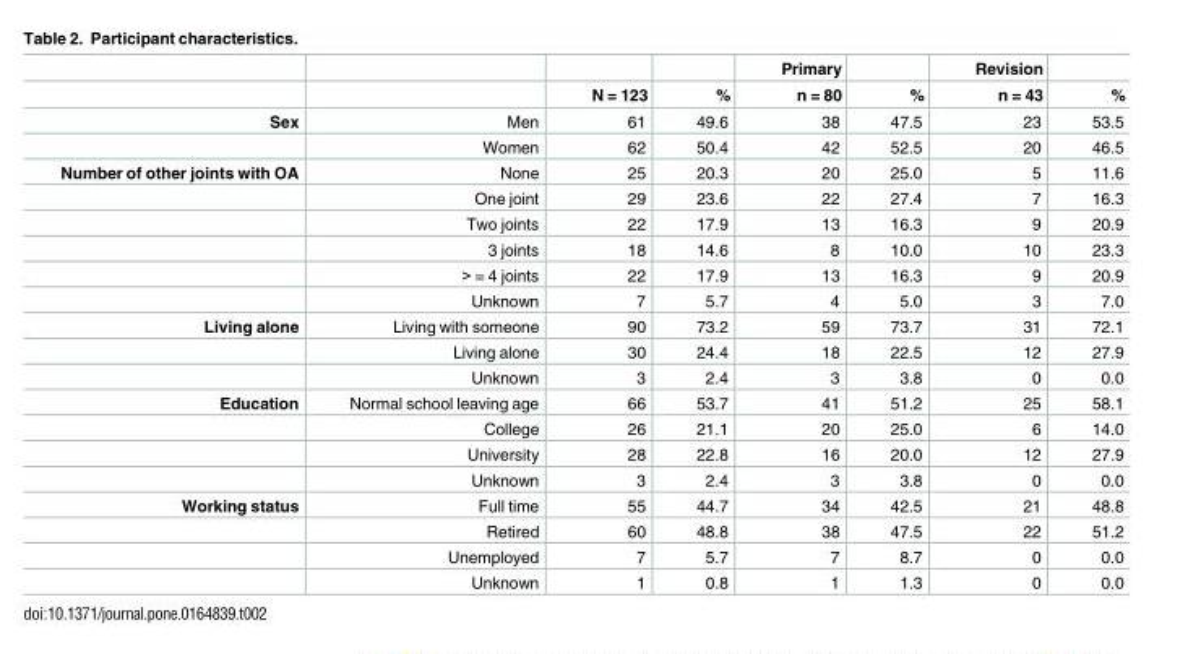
<table><thead><tr><td rowspan="2"></td><td rowspan="2"></td><td rowspan="2">N = 123</td><td rowspan="2">%</td><td rowspan="2">Primary n = 80</td><td rowspan="2">%</td><td rowspan="2">Revision n = 43</td><td rowspan="2">%</td></tr><tr></tr></thead><tbody><tr><td rowspan="2">Sex</td><td>Men</td><td>61</td><td>49.6</td><td>38</td><td>47.5</td><td>23</td><td>53.5</td></tr><tr><td>Women</td><td>62</td><td>50.4</td><td>42</td><td>52.5</td><td>20</td><td>46.5</td></tr><tr><td rowspan="6">Number of other joints with OA</td><td>None</td><td>25</td><td>20.3</td><td>20</td><td>25.0</td><td>5</td><td>11.6</td></tr><tr><td>One joint</td><td>29</td><td>23.6</td><td>22</td><td>27.4</td><td>7</td><td>16.3</td></tr><tr><td>Two joints</td><td>22</td><td>17.9</td><td>13</td><td>16.3</td><td>9</td><td>20.9</td></tr><tr><td>3 joints</td><td>18</td><td>14.6</td><td>8</td><td>10.0</td><td>10</td><td>23.3</td></tr><tr><td>&gt; = 4 joints</td><td>22</td><td>17.9</td><td>13</td><td>16.3</td><td>9</td><td>20.9</td></tr><tr><td>Unknown</td><td>7</td><td>5.7</td><td>4</td><td>5.0</td><td>3</td><td>7.0</td></tr><tr><td rowspan="3">Living alone</td><td>Living with someone</td><td>90</td><td>73.2</td><td>59</td><td>73.7</td><td>31</td><td>72.1</td></tr><tr><td>Living alone</td><td>30</td><td>24.4</td><td>18</td><td>22.5</td><td>12</td><td>27.9</td></tr><tr><td>Unknown</td><td>3</td><td>2.4</td><td>3</td><td>3.8</td><td>0</td><td>0.0</td></tr><tr><td rowspan="4">Education</td><td>Normal school leaving age</td><td>66</td><td>53.7</td><td>41</td><td>51.2</td><td>25</td><td>58.1</td></tr><tr><td>College</td><td>26</td><td>21.1</td><td>20</td><td>25.0</td><td>6</td><td>14.0</td></tr><tr><td>University</td><td>28</td><td>22.8</td><td>16</td><td>20.0</td><td>12</td><td>27.9</td></tr><tr><td>Unknown</td><td>3</td><td>2.4</td><td>3</td><td>3.8</td><td>0</td><td>0.0</td></tr><tr><td rowspan="4">Working status</td><td>Full time</td><td>55</td><td>44.7</td><td>34</td><td>42.5</td><td>21</td><td>48.8</td></tr><tr><td>Retired</td><td>60</td><td>48.8</td><td>38</td><td>47.5</td><td>22</td><td>51.2</td></tr><tr><td>Unemployed</td><td>7</td><td>5.7</td><td>7</td><td>8.7</td><td>0</td><td>0.0</td></tr><tr><td>Unknown</td><td>1</td><td>0.8</td><td>1</td><td>1.3</td><td>0</td><td>0.0</td></tr></tbody></table>